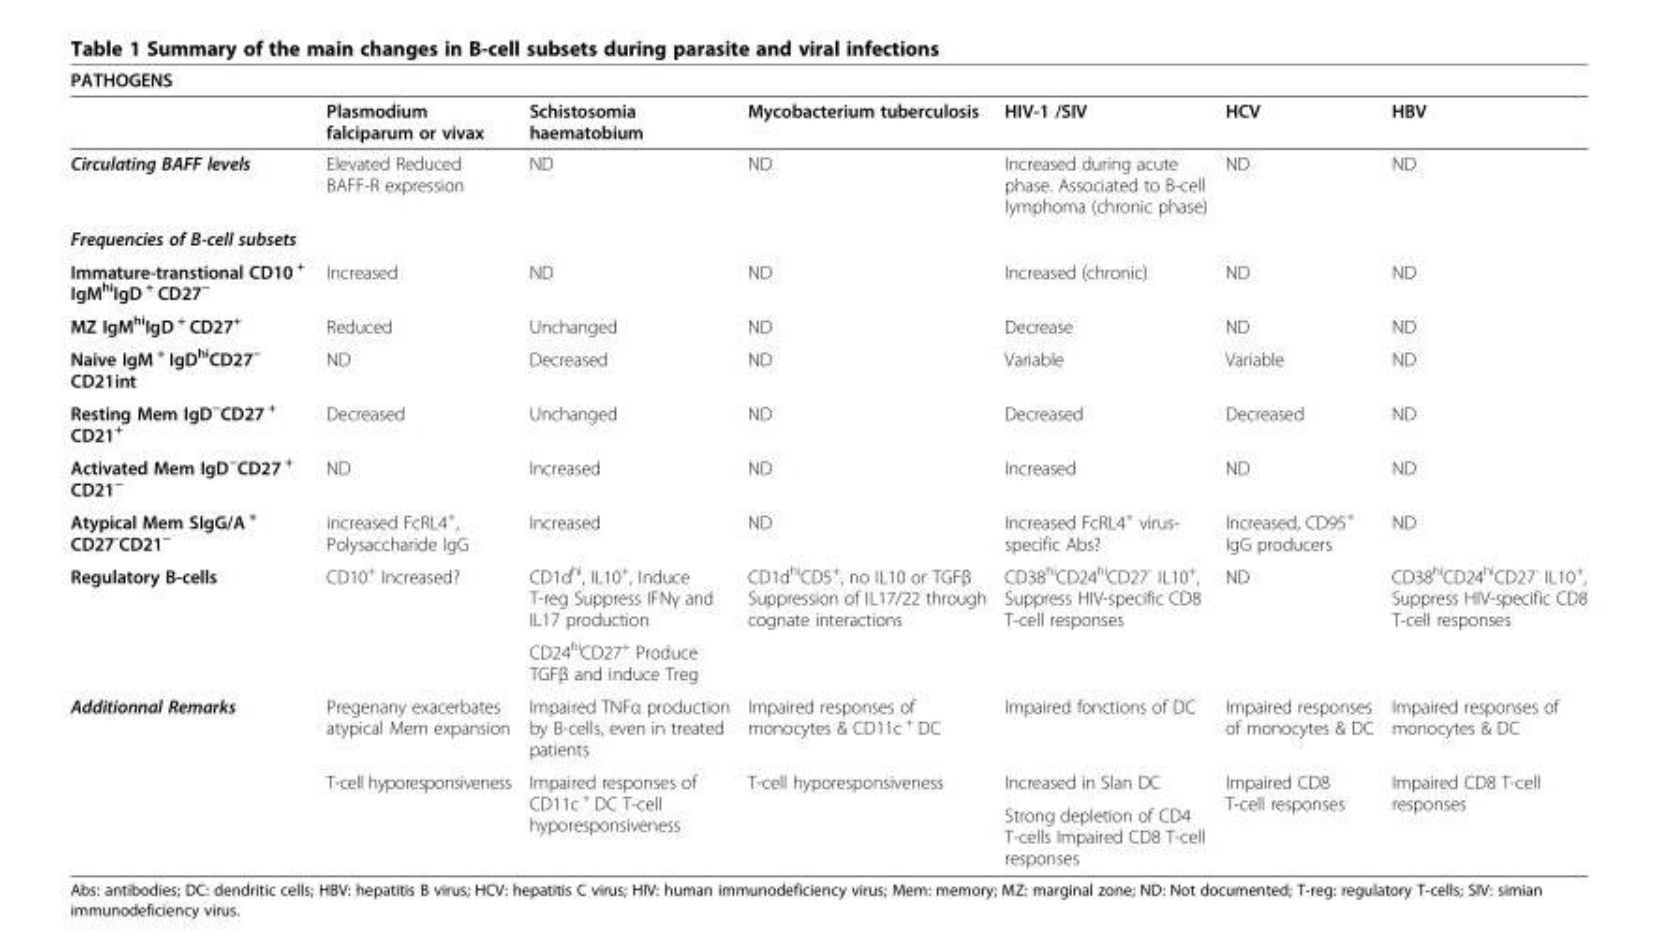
<table><thead><tr><td colspan="7">PATHOGENS</td></tr><tr><td></td><td>Plasmodium falciparum or vivax</td><td>Schistosomia haematobium</td><td>Mycobacterium tuberculosis</td><td>HIV-1 /SIV</td><td>HCV</td><td>HBV</td></tr></thead><tbody><tr><td>Circulating BAFF levels</td><td>Elevated Reduced BAFF-R expression</td><td>ND</td><td>ND</td><td>Increased during acute phase. Associated to B-cell lymphoma (chronic phase)</td><td>ND</td><td>ND</td></tr><tr><td colspan="7">Frequencies of B-cell subsets</td></tr><tr><td>Immature-transtional CD10 <sup>+</sup> IgM<sup>hi</sup>IgD <sup>+</sup> CD27<sup>−</sup></td><td>Increased</td><td>ND</td><td>ND</td><td>Increased (chronic)</td><td>ND</td><td>ND</td></tr><tr><td>MZ IgM<sup>hi</sup>IgD <sup>+</sup> CD27<sup>+</sup></td><td>Reduced</td><td>Unchanged</td><td>ND</td><td>Decrease</td><td>ND</td><td>ND</td></tr><tr><td>Naive IgM <sup>+</sup> IgD<sup>hi</sup>CD27<sup>−</sup> CD21int</td><td>ND</td><td>Decreased</td><td>ND</td><td>Variable</td><td>Variable</td><td>ND</td></tr><tr><td>Resting Mem IgD<sup>−</sup>CD27 <sup>+</sup> CD21<sup>+</sup></td><td>Decreased</td><td>Unchanged</td><td>ND</td><td>Decreased</td><td>Decreased</td><td>ND</td></tr><tr><td>Activated Mem IgD<sup>−</sup>CD27 <sup>+</sup> CD21<sup>−</sup></td><td>ND</td><td>Increased</td><td>ND</td><td>Increased</td><td>ND</td><td>ND</td></tr><tr><td>Atypical Mem SIgG/A <sup>+</sup> CD27<sup>-</sup>CD21<sup>−</sup></td><td>increased FcRL4<sup>+</sup>, Polysaccharide IgG</td><td>Increased</td><td>ND</td><td>Increased FcRL4<sup>+</sup> virus- specific Abs?</td><td>Increased, CD95<sup>+</sup> IgG producers</td><td>ND</td></tr><tr><td rowspan="2">Regulatory B-cells</td><td rowspan="2">CD10<sup>+</sup> Increased?</td><td>CD1d<sup>hi</sup>, IL10<sup>+</sup>, Induce T-reg Suppress IFNγ and IL17 production</td><td rowspan="2">CD1d<sup>hi</sup>CD5<sup>+</sup>, no IL10 or TGFβ Suppression of IL17/22 through cognate interactions</td><td rowspan="2">CD38<sup>hi</sup>CD24<sup>hi</sup>CD27<sup>-</sup> IL10<sup>+</sup>, Suppress HIV-specific CD8 T-cell responses</td><td rowspan="2">ND</td><td rowspan="2">CD38<sup>hi</sup>CD24<sup>hi</sup>CD27<sup>-</sup> IL10<sup>+</sup>, Suppress HIV-specific CD8 T-cell responses</td></tr><tr><td>CD24<sup>hi</sup>CD27<sup>+</sup> Produce TGFβ and induce Treg</td></tr><tr><td rowspan="3">Additionnal Remarks</td><td>Pregenany exacerbates atypical Mem expansion</td><td>Impaired TNFα production by B-cells, even in treated patients</td><td>Impaired responses of monocytes &amp; CD11c <sup>+</sup> DC</td><td>Impaired fonctions of DC</td><td>Impaired responses of monocytes &amp; DC</td><td>Impaired responses of monocytes &amp; DC</td></tr><tr><td rowspan="2">T-cell hyporesponsiveness</td><td rowspan="2">Impaired responses of CD11c <sup>+</sup> DC T-cell hyporesponsiveness</td><td rowspan="2">T-cell hyporesponsiveness</td><td>Increased in Slan DC</td><td rowspan="2">Impaired CD8 T-cell responses</td><td rowspan="2">Impaired CD8 T-cell responses</td></tr><tr><td>Strong depletion of CD4 T-cells Impaired CD8 T-cell responses</td></tr></tbody></table>